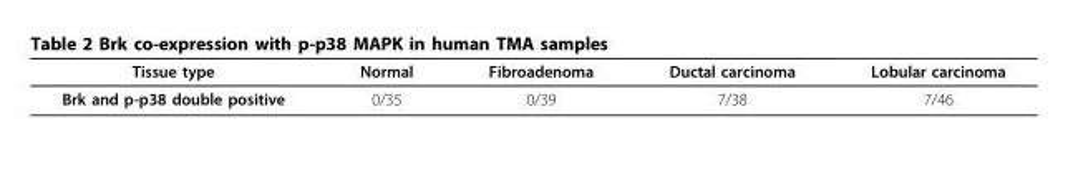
<table><thead><tr><td>Tissue type</td><td>Normal</td><td>Fibroadenoma</td><td>Ductal carcinoma</td><td>Lobular carcinoma</td></tr></thead><tbody><tr><td>Brk and p-p38 double positive</td><td>0/35</td><td>0/39</td><td>7/38</td><td>7/46</td></tr></tbody></table>